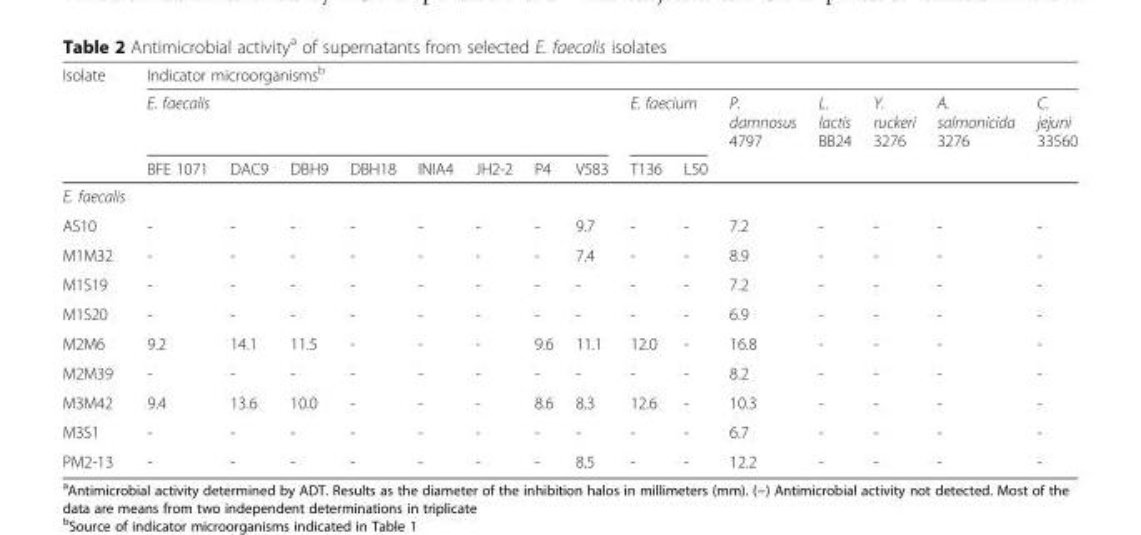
<table><thead><tr><td rowspan="3">Isolate</td><td colspan="15">Indicator microorganisms<sup>b</sup></td></tr><tr><td colspan="8">E. faecalis</td><td colspan="2">E. faecium</td><td rowspan="2">P. damnosus 4797</td><td rowspan="2">L. lactis BB24</td><td rowspan="2">Y. ruckeri 3276</td><td rowspan="2">A. salmonicida 3276</td><td rowspan="2">C. jejuni 33560</td></tr><tr><td>BFE 1071</td><td>DAC9</td><td>DBH9</td><td>DBH18</td><td>INIA4</td><td>JH2-2</td><td>P4</td><td>V583</td><td>T136</td><td>L50</td></tr></thead><tbody><tr><td colspan="16">E. faecalis</td></tr><tr><td>AS10</td><td>-</td><td>-</td><td>-</td><td>-</td><td>-</td><td>-</td><td>-</td><td>9.7</td><td>-</td><td>-</td><td>7.2</td><td>-</td><td>-</td><td>-</td><td>-</td></tr><tr><td>M1M32</td><td>-</td><td>-</td><td>-</td><td>-</td><td>-</td><td>-</td><td>-</td><td>7.4</td><td>-</td><td>-</td><td>8.9</td><td>-</td><td>-</td><td>-</td><td>-</td></tr><tr><td>M1S19</td><td>-</td><td>-</td><td>-</td><td>-</td><td>-</td><td>-</td><td>-</td><td>-</td><td>-</td><td>-</td><td>7.2</td><td>-</td><td>-</td><td>-</td><td>-</td></tr><tr><td>M1S20</td><td>-</td><td>-</td><td>-</td><td>-</td><td>-</td><td>-</td><td>-</td><td>-</td><td>-</td><td>-</td><td>6.9</td><td>-</td><td>-</td><td>-</td><td>-</td></tr><tr><td>M2M6</td><td>9.2</td><td>14.1</td><td>11.5</td><td>-</td><td>-</td><td>-</td><td>9.6</td><td>11.1</td><td>12.0</td><td>-</td><td>16.8</td><td>-</td><td>-</td><td>-</td><td>-</td></tr><tr><td>M2M39</td><td>-</td><td>-</td><td>-</td><td>-</td><td>-</td><td>-</td><td>-</td><td>-</td><td>-</td><td>-</td><td>8.2</td><td>-</td><td>-</td><td>-</td><td>-</td></tr><tr><td>M3M42</td><td>9.4</td><td>13.6</td><td>10.0</td><td>-</td><td>-</td><td>-</td><td>8.6</td><td>8.3</td><td>12.6</td><td>-</td><td>10.3</td><td>-</td><td>-</td><td>-</td><td>-</td></tr><tr><td>M3S1</td><td>-</td><td>-</td><td>-</td><td>-</td><td>-</td><td>-</td><td>-</td><td>-</td><td>-</td><td>-</td><td>6.7</td><td>-</td><td>-</td><td>-</td><td>-</td></tr><tr><td>PM2-13</td><td>-</td><td>-</td><td>-</td><td>-</td><td>-</td><td>-</td><td>-</td><td>8.5</td><td>-</td><td>-</td><td>12.2</td><td>-</td><td>-</td><td>-</td><td>-</td></tr></tbody></table>